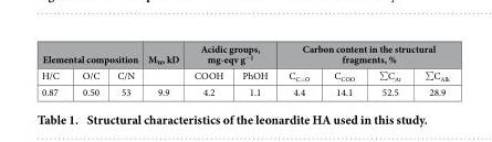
<table><thead><tr><td colspan="3">Elemental composition</td><td rowspan="2">M<sub>W</sub>, kD</td><td colspan="2">Acidic groups, mg-eqv g<sup>−1</sup></td><td colspan="4">Carbon content in the structural fragments, %</td></tr><tr><td>H/C</td><td>O/C</td><td>C/N</td><td>COOH</td><td>PhOH</td><td>C<sub>C=O</sub></td><td>C<sub>COO</sub></td><td>∑ C<sub>Ar</sub></td><td>∑ C<sub>Alk</sub></td></tr></thead><tbody><tr><td>0.87</td><td>0.50</td><td>53</td><td>9.9</td><td>4.2</td><td>1.1</td><td>4.4</td><td>14.1</td><td>52.5</td><td>28.9</td></tr></tbody></table>